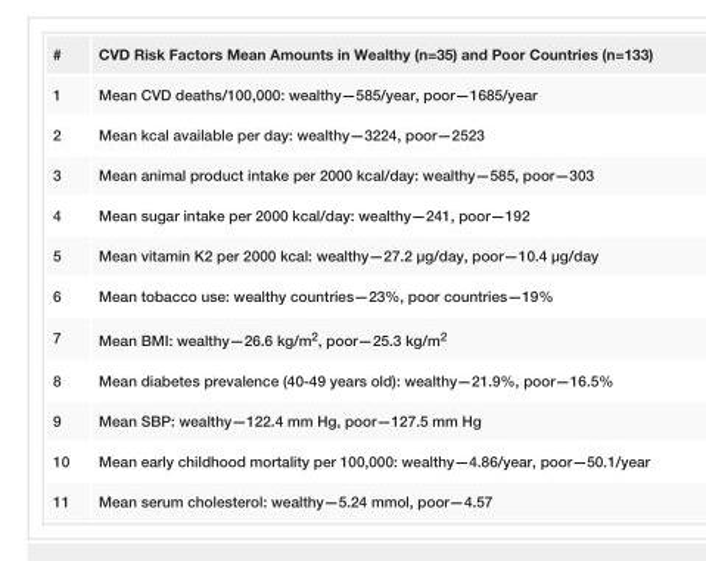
<table><tbody><tr><td>#</td><td>CVD Risk Factors Mean Amounts in Wealthy (n=35) and Poor Countries (n=133)</td></tr><tr><td>1</td><td>Mean CVD deaths/100,000: wealthy—585/year, poor—1685/year</td></tr><tr><td>2</td><td>Mean kcal available per day: wealthy—3224, poor—2523</td></tr><tr><td>3</td><td>Mean animal product intake per 2000 kcal/day: wealthy—585, poor—303</td></tr><tr><td>4</td><td>Mean sugar intake per 2000 kcal/day: wealthy—241, poor—192</td></tr><tr><td>5</td><td>Mean vitamin K2 per 2000 kcal: wealthy—27.2 µg/day, poor—10.4 µg/day</td></tr><tr><td>6</td><td>Mean tobacco use: wealthy countries—23%, poor countries—19%</td></tr><tr><td>7</td><td>Mean BMI: wealthy—26.6 kg/m<sup>2</sup>, poor—25.3 kg/m<sup>2</sup></td></tr><tr><td>8</td><td>Mean diabetes prevalence (40-49 years old): wealthy—21.9%, poor—16.5%</td></tr><tr><td>9</td><td>Mean SBP: wealthy—122.4 mm Hg, poor—127.5 mm Hg</td></tr><tr><td>10</td><td>Mean early childhood mortality per 100,000: wealthy—4.86/year, poor—50.1/year</td></tr><tr><td>11</td><td>Mean serum cholesterol: wealthy—5.24 mmol, poor—4.57</td></tr></tbody></table>